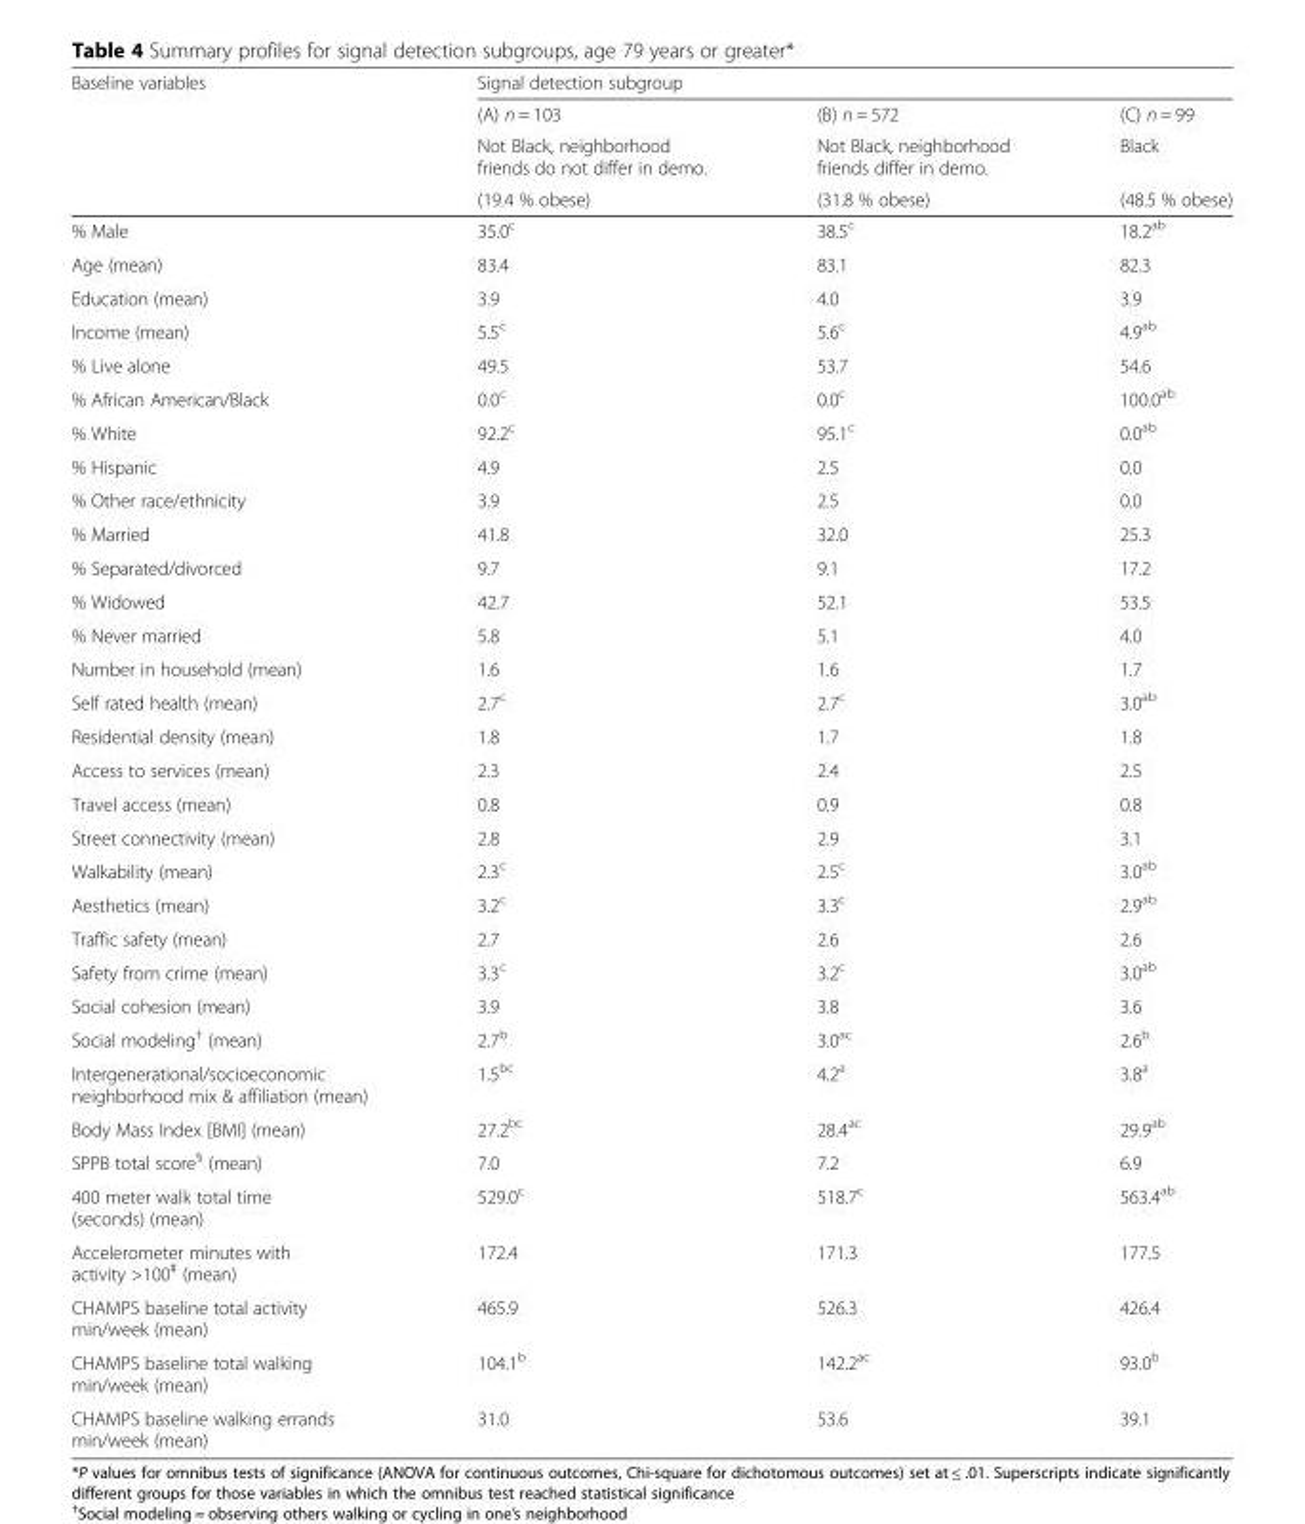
<table><thead><tr><td rowspan="4">Baseline variables</td><td colspan="3">Signal detection subgroup</td></tr><tr><td rowspan="3">(A) n = 103 Not Black, neighborhood friends do not differ in demo. (19.4 % obese)</td><td rowspan="3">(B) n = 572 Not Black, neighborhood friends differ in demo. (31.8 % obese)</td><td rowspan="3">(C) n = 99 Black (48.5 % obese)</td></tr><tr></tr><tr></tr></thead><tbody><tr><td>% Male</td><td>35.0<sup>c</sup></td><td>38.5<sup>c</sup></td><td>18.2<sup>ab</sup></td></tr><tr><td>Age (mean)</td><td>83.4</td><td>83.1</td><td>82.3</td></tr><tr><td>Education (mean)</td><td>3.9</td><td>4.0</td><td>3.9</td></tr><tr><td>Income (mean)</td><td>5.5<sup>c</sup></td><td>5.6<sup>c</sup></td><td>4.9<sup>ab</sup></td></tr><tr><td>% Live alone</td><td>49.5</td><td>53.7</td><td>54.6</td></tr><tr><td>% African American/Black</td><td>0.0<sup>c</sup></td><td>0.0<sup>c</sup></td><td>100.0<sup>ab</sup></td></tr><tr><td>% White</td><td>92.2<sup>c</sup></td><td>95.1<sup>c</sup></td><td>0.0<sup>ab</sup></td></tr><tr><td>% Hispanic</td><td>4.9</td><td>2.5</td><td>0.0</td></tr><tr><td>% Other race/ethnicity</td><td>3.9</td><td>2.5</td><td>0.0</td></tr><tr><td>% Married</td><td>41.8</td><td>32.0</td><td>25.3</td></tr><tr><td>% Separated/divorced</td><td>9.7</td><td>9.1</td><td>17.2</td></tr><tr><td>% Widowed</td><td>42.7</td><td>52.1</td><td>53.5</td></tr><tr><td>% Never married</td><td>5.8</td><td>5.1</td><td>4.0</td></tr><tr><td>Number in household (mean)</td><td>1.6</td><td>1.6</td><td>1.7</td></tr><tr><td>Self rated health (mean)</td><td>2.7<sup>c</sup></td><td>2.7<sup>c</sup></td><td>3.0<sup>ab</sup></td></tr><tr><td>Residential density (mean)</td><td>1.8</td><td>1.7</td><td>1.8</td></tr><tr><td>Access to services (mean)</td><td>2.3</td><td>2.4</td><td>2.5</td></tr><tr><td>Travel access (mean)</td><td>0.8</td><td>0.9</td><td>0.8</td></tr><tr><td>Street connectivity (mean)</td><td>2.8</td><td>2.9</td><td>3.1</td></tr><tr><td>Walkability (mean)</td><td>2.3<sup>c</sup></td><td>2.5<sup>c</sup></td><td>3.0<sup>ab</sup></td></tr><tr><td>Aesthetics (mean)</td><td>3.2<sup>c</sup></td><td>3.3<sup>c</sup></td><td>2.9<sup>ab</sup></td></tr><tr><td>Traffic safety (mean)</td><td>2.7</td><td>2.6</td><td>2.6</td></tr><tr><td>Safety from crime (mean)</td><td>3.3<sup>c</sup></td><td>3.2<sup>c</sup></td><td>3.0<sup>ab</sup></td></tr><tr><td>Social cohesion (mean)</td><td>3.9</td><td>3.8</td><td>3.6</td></tr><tr><td>Social modeling<sup>†</sup> (mean)</td><td>2.7<sup>b</sup></td><td>3.0<sup>ac</sup></td><td>2.6<sup>b</sup></td></tr><tr><td>Intergenerational/socioeconomic neighborhood mix &amp; affiliation (mean)</td><td>1.5<sup>bc</sup></td><td>4.2<sup>a</sup></td><td>3.8<sup>a</sup></td></tr><tr><td>Body Mass Index [BMI] (mean)</td><td>27.2<sup>bc</sup></td><td>28.4<sup>ac</sup></td><td>29.9<sup>ab</sup></td></tr><tr><td>SPPB total score<sup>§</sup> (mean)</td><td>7.0</td><td>7.2</td><td>6.9</td></tr><tr><td>400 meter walk total time (seconds) (mean)</td><td>529.0<sup>c</sup></td><td>518.7<sup>c</sup></td><td>563.4<sup>ab</sup></td></tr><tr><td>Accelerometer minutes with activity &gt;100<sup>#</sup> (mean)</td><td>172.4</td><td>171.3</td><td>177.5</td></tr><tr><td>CHAMPS baseline total activity min/week (mean)</td><td>465.9</td><td>526.3</td><td>426.4</td></tr><tr><td>CHAMPS baseline total walking min/week (mean)</td><td>104.1<sup>b</sup></td><td>142.2<sup>ac</sup></td><td>93.0<sup>b</sup></td></tr><tr><td>CHAMPS baseline walking errands min/week (mean)</td><td>31.0</td><td>53.6</td><td>39.1</td></tr></tbody></table>